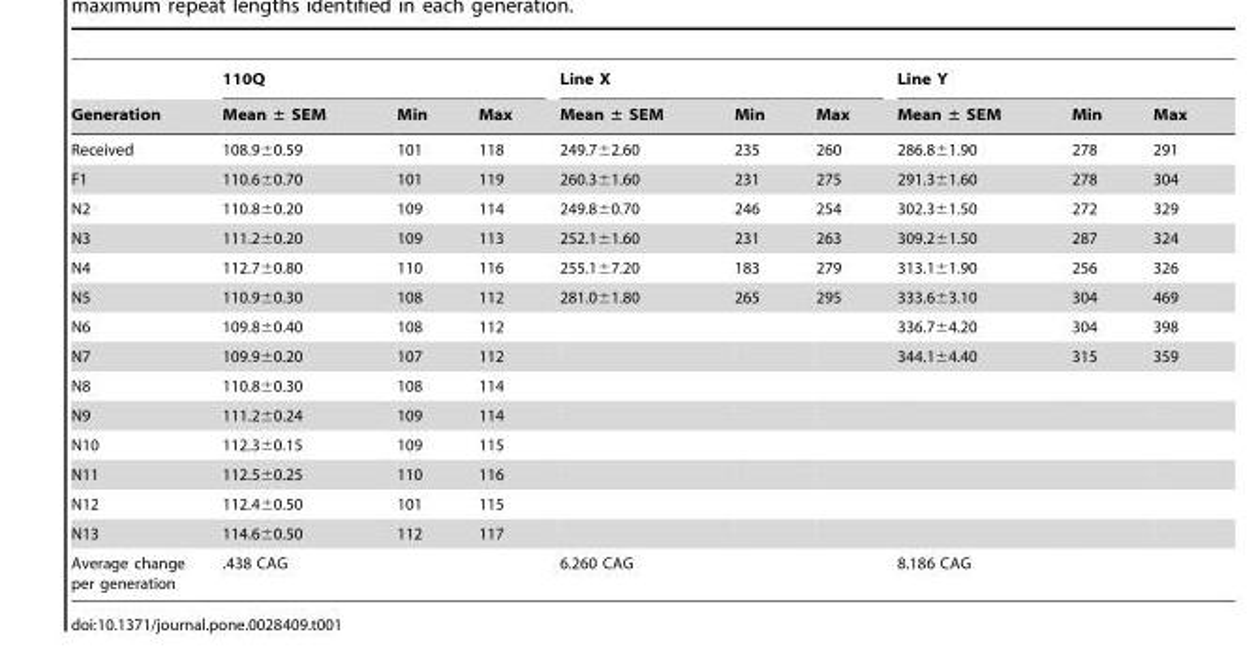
<table><thead><tr><td rowspan="2">Generation</td><td colspan="3">110Q</td><td colspan="3">Line X</td><td colspan="3">Line Y</td></tr><tr><td>Mean ± SEM</td><td>Min</td><td>Max</td><td>Mean ± SEM</td><td>Min</td><td>Max</td><td>Mean ± SEM</td><td>Min</td><td>Max</td></tr></thead><tbody><tr><td>Received</td><td>108.9±0.59</td><td>101</td><td>118</td><td>249.7±2.60</td><td>235</td><td>260</td><td>286.8±1.90</td><td>278</td><td>291</td></tr><tr><td>F1</td><td>110.6±0.70</td><td>101</td><td>119</td><td>260.3±1.60</td><td>231</td><td>275</td><td>291.3±1.60</td><td>278</td><td>304</td></tr><tr><td>N2</td><td>110.8±0.20</td><td>109</td><td>114</td><td>249.8±0.70</td><td>246</td><td>254</td><td>302.3±1.50</td><td>272</td><td>329</td></tr><tr><td>N3</td><td>111.2±0.20</td><td>109</td><td>113</td><td>252.1±1.60</td><td>231</td><td>263</td><td>309.2±1.50</td><td>287</td><td>324</td></tr><tr><td>N4</td><td>112.7±0.80</td><td>110</td><td>116</td><td>255.1±7.20</td><td>183</td><td>279</td><td>313.1±1.90</td><td>256</td><td>326</td></tr><tr><td>N5</td><td>110.9±0.30</td><td>108</td><td>112</td><td>281.0±1.80</td><td>265</td><td>295</td><td>333.6±3.10</td><td>304</td><td>469</td></tr><tr><td>N6</td><td>109.8±0.40</td><td>108</td><td>112</td><td></td><td></td><td></td><td>336.7±4.20</td><td>304</td><td>398</td></tr><tr><td>N7</td><td>109.9±0.20</td><td>107</td><td>112</td><td></td><td></td><td></td><td>344.1±4.40</td><td>315</td><td>359</td></tr><tr><td>N8</td><td>110.8±0.30</td><td>108</td><td>114</td><td></td><td></td><td></td><td></td><td></td><td></td></tr><tr><td>N9</td><td>111.2±0.24</td><td>109</td><td>114</td><td></td><td></td><td></td><td></td><td></td><td></td></tr><tr><td>N10</td><td>112.3±0.15</td><td>109</td><td>115</td><td></td><td></td><td></td><td></td><td></td><td></td></tr><tr><td>N11</td><td>112.5±0.25</td><td>110</td><td>116</td><td></td><td></td><td></td><td></td><td></td><td></td></tr><tr><td>N12</td><td>112.4±0.50</td><td>101</td><td>115</td><td></td><td></td><td></td><td></td><td></td><td></td></tr><tr><td>N13</td><td>114.6±0.50</td><td>112</td><td>117</td><td></td><td></td><td></td><td></td><td></td><td></td></tr><tr><td>Average change per generation</td><td>.438 CAG</td><td></td><td></td><td>6.260 CAG</td><td></td><td></td><td>8.186 CAG</td><td></td><td></td></tr></tbody></table>